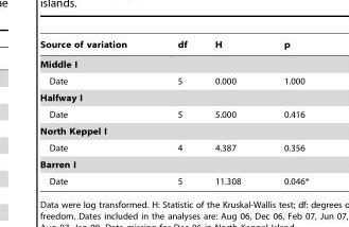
<table><thead><tr><td>Source of variation</td><td>df</td><td>H</td><td>p</td></tr></thead><tbody><tr><td colspan="4">Middle I</td></tr><tr><td>Date</td><td>5</td><td>0.000</td><td>1.000</td></tr><tr><td colspan="4">Halfway I</td></tr><tr><td>Date</td><td>5</td><td>5.000</td><td>0.416</td></tr><tr><td colspan="4">North Keppel I</td></tr><tr><td>Date</td><td>4</td><td>4.387</td><td>0.356</td></tr><tr><td colspan="4">Barren I</td></tr><tr><td>Date</td><td>5</td><td>11.308</td><td>0.046*</td></tr></tbody></table>